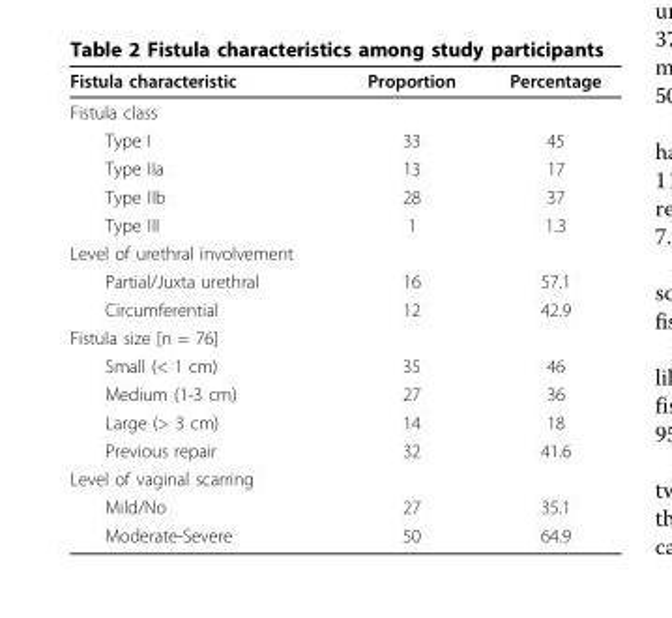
<table><thead><tr><td>Fistula characteristic</td><td>Proportion</td><td>Percentage</td></tr></thead><tbody><tr><td colspan="3">Fistula class</td></tr><tr><td>Type I</td><td>33</td><td>45</td></tr><tr><td>Type IIa</td><td>13</td><td>17</td></tr><tr><td>Type IIb</td><td>28</td><td>37</td></tr><tr><td>Type III</td><td>1</td><td>1.3</td></tr><tr><td colspan="3">Level of urethral involvement</td></tr><tr><td>Partial/Juxta urethral</td><td>16</td><td>57.1</td></tr><tr><td>Circumferential</td><td>12</td><td>42.9</td></tr><tr><td colspan="3">Fistula size [n = 76]</td></tr><tr><td>Small (&lt; 1 cm)</td><td>35</td><td>46</td></tr><tr><td>Medium (1-3 cm)</td><td>27</td><td>36</td></tr><tr><td>Large (&gt; 3 cm)</td><td>14</td><td>18</td></tr><tr><td>Previous repair</td><td>32</td><td>41.6</td></tr><tr><td colspan="3">Level of vaginal scarring</td></tr><tr><td>Mild/No</td><td>27</td><td>35.1</td></tr><tr><td>Moderate-Severe</td><td>50</td><td>64.9</td></tr></tbody></table>